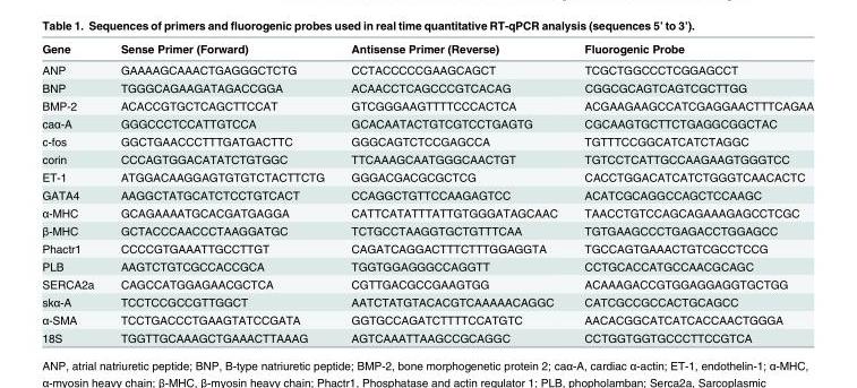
<table><thead><tr><td>Gene</td><td>Sense Primer (Forward)</td><td>Antisense Primer (Reverse)</td><td>Fluorogenic Probe</td></tr></thead><tbody><tr><td>ANP</td><td>GAAAAGCAAACTGAGGGCTCTG</td><td>CCTACCCCCGAAGCAGCT</td><td>TCGCTGGCCCTCGGAGCCT</td></tr><tr><td>BNP</td><td>TGGGCAGAAGATAGACCGGA</td><td>ACAACCTCAGCCCGTCACAG</td><td>CGGCGCAGTCAGTCGCTTGG</td></tr><tr><td>BMP-2</td><td>ACACCGTGCTCAGCTTCCAT</td><td>GTCGGGAAGTTTTCCCACTCA</td><td>ACGAAGAAGCCATCGAGGAACTTTCAGAA</td></tr><tr><td>caα-A</td><td>GGGCCCTCCATTGTCCA</td><td>GCACAATACTGTCGTCCTGAGTG</td><td>CGCAAGTGCTTCTGAGGCGGCTAC</td></tr><tr><td>c-fos</td><td>GGCTGAACCCTTTGATGACTTC</td><td>GGGCAGTCTCCGAGCCA</td><td>TGTTTCCGGCATCATCTAGGC</td></tr><tr><td>corin</td><td>CCCAGTGGACATATCTGTGGC</td><td>TTCAAAGCAATGGGCAACTGT</td><td>TGTCCTCATTGCCAAGAAGTGGGTCC</td></tr><tr><td>ET-1</td><td>ATGGACAAGGAGTGTGTCTACTTCTG</td><td>GGGACGACGCGCTCG</td><td>CACCTGGACATCATCTGGGTCAACACTC</td></tr><tr><td>GATA4</td><td>AAGGCTATGCATCTCCTGTCACT</td><td>CCAGGCTGTTCCAAGAGTCC</td><td>ACATCGCAGGCCAGCTCCAAGC</td></tr><tr><td>α-MHC</td><td>GCAGAAAATGCACGATGAGGA</td><td>CATTCATATTTATTGTGGGATAGCAAC</td><td>TAACCTGTCCAGCAGAAAGAGCCTCGC</td></tr><tr><td>β-MHC</td><td>GCTACCCAACCCTAAGGATGC</td><td>TCTGCCTAAGGTGCTGTTTCAA</td><td>TGTGAAGCCCTGAGACCTGGAGCC</td></tr><tr><td>Phactr1</td><td>CCCCGTGAAATTGCCTTGT</td><td>CAGATCAGGACTTTCTTTGGAGGTA</td><td>TGCCAGTGAAACTGTCGCCTCCG</td></tr><tr><td>PLB</td><td>AAGTCTGTCGCCACCGCA</td><td>TGGTGGAGGGCCAGGTT</td><td>CCTGCACCATGCCAACGCAGC</td></tr><tr><td>SERCA2a</td><td>CAGCCATGGAGAACGCTCA</td><td>CGTTGACGCCGAAGTGG</td><td>ACAAAGACCGTGGAGGAGGTGCTGG</td></tr><tr><td>skα-A</td><td>TCCTCCGCCGTTGGCT</td><td>AATCTATGTACACGTCAAAAACAGGC</td><td>CATCGCCGCCACTGCAGCC</td></tr><tr><td>α-SMA</td><td>TCCTGACCCTGAAGTATCCGATA</td><td>GGTGCCAGATCTTTTCCATGTC</td><td>AACACGGCATCATCACCAACTGGGA</td></tr><tr><td>18S</td><td>TGGTTGCAAAGCTGAAACTTAAAG</td><td>AGTCAAATTAAGCCGCAGGC</td><td>CCTGGTGGTGCCCTTCCGTCA</td></tr></tbody></table>